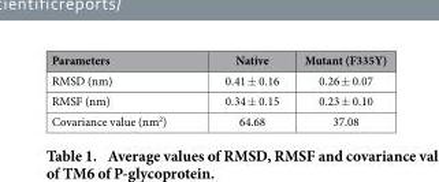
<table><thead><tr><td>Parameters</td><td>Native</td><td>Mutant (F335Y)</td></tr></thead><tbody><tr><td>RMSD (nm)</td><td>0.41 ± 0.16</td><td>0.26 ± 0.07</td></tr><tr><td>RMSF (nm)</td><td>0.34 ± 0.15</td><td>0.23 ± 0.10</td></tr><tr><td>Covariance value (nm<sup>2</sup>)</td><td>64.68</td><td>37.08</td></tr></tbody></table>